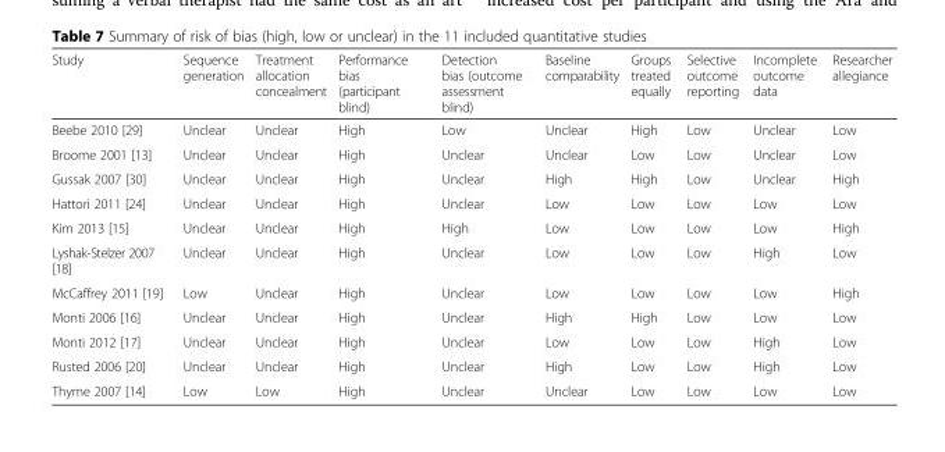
<table><thead><tr><td>Study</td><td>Sequence generation</td><td>Treatment allocation concealment</td><td>Performance bias (participant blind)</td><td>Detection bias (outcome assessment blind)</td><td>Baseline comparability</td><td>Groups treated equally</td><td>Selective outcome reporting</td><td>Incomplete outcome data</td><td>Researcher allegiance</td></tr></thead><tbody><tr><td>Beebe 2010 [29]</td><td>Unclear</td><td>Unclear</td><td>High</td><td>Low</td><td>Unclear</td><td>High</td><td>Low</td><td>Unclear</td><td>Low</td></tr><tr><td>Broome 2001 [13]</td><td>Unclear</td><td>Unclear</td><td>High</td><td>Unclear</td><td>Unclear</td><td>Low</td><td>Low</td><td>Unclear</td><td>Low</td></tr><tr><td>Gussak 2007 [30]</td><td>Unclear</td><td>Unclear</td><td>High</td><td>Unclear</td><td>High</td><td>High</td><td>Low</td><td>Unclear</td><td>High</td></tr><tr><td>Hattori 2011 [24]</td><td>Unclear</td><td>Unclear</td><td>High</td><td>Unclear</td><td>Low</td><td>Low</td><td>Low</td><td>Low</td><td>Low</td></tr><tr><td>Kim 2013 [15]</td><td>Unclear</td><td>Unclear</td><td>High</td><td>High</td><td>Low</td><td>Low</td><td>Low</td><td>Low</td><td>High</td></tr><tr><td>Lyshak-Stelzer 2007 [18]</td><td>Unclear</td><td>Unclear</td><td>High</td><td>Unclear</td><td>Low</td><td>Low</td><td>Low</td><td>High</td><td>Low</td></tr><tr><td>McCaffrey 2011 [19]</td><td>Low</td><td>Unclear</td><td>High</td><td>Unclear</td><td>Low</td><td>Low</td><td>Low</td><td>Low</td><td>High</td></tr><tr><td>Monti 2006 [16]</td><td>Unclear</td><td>Unclear</td><td>High</td><td>Unclear</td><td>High</td><td>High</td><td>Low</td><td>Low</td><td>Low</td></tr><tr><td>Monti 2012 [17]</td><td>Unclear</td><td>Unclear</td><td>High</td><td>Unclear</td><td>Low</td><td>Low</td><td>Low</td><td>High</td><td>Low</td></tr><tr><td>Rusted 2006 [20]</td><td>Unclear</td><td>Unclear</td><td>High</td><td>Unclear</td><td>High</td><td>Low</td><td>Low</td><td>High</td><td>Low</td></tr><tr><td>Thyme 2007 [14]</td><td>Low</td><td>Low</td><td>High</td><td>Unclear</td><td>Unclear</td><td>Low</td><td>Low</td><td>Low</td><td>Low</td></tr></tbody></table>